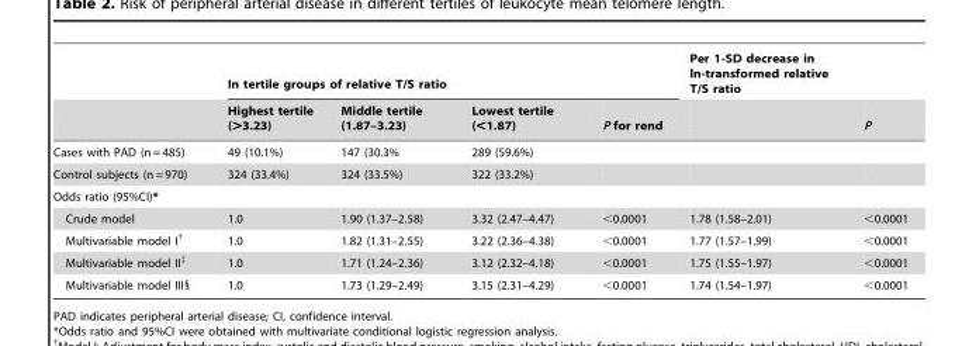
<table><thead><tr><td rowspan="2"></td><td colspan="4">In tertile groups of relative T/S ratio</td><td rowspan="2">Per 1-SD decrease in ln-transformed relative T/S ratio</td><td rowspan="2">P</td></tr><tr><td>Highest tertile (&gt;3.23)</td><td>Middle tertile (1.87–3.23)</td><td>Lowest tertile (&lt;1.87)</td><td>P for rend</td></tr></thead><tbody><tr><td>Cases with PAD (n = 485)</td><td>49 (10.1%)</td><td>147 (30.3%</td><td>289 (59.6%)</td><td></td><td></td><td></td></tr><tr><td>Control subjects (n = 970)</td><td>324 (33.4%)</td><td>324 (33.5%)</td><td>322 (33.2%)</td><td></td><td></td><td></td></tr><tr><td colspan="7">Odds ratio (95%CI)*</td></tr><tr><td>Crude model</td><td>1.0</td><td>1.90 (1.37–2.58)</td><td>3.32 (2.47–4.47)</td><td>&lt;0.0001</td><td>1.78 (1.58–2.01)</td><td>&lt;0.0001</td></tr><tr><td>Multivariable model I†</td><td>1.0</td><td>1.82 (1.31–2.55)</td><td>3.22 (2.36–4.38)</td><td>&lt;0.0001</td><td>1.77 (1.57–1.99)</td><td>&lt;0.0001</td></tr><tr><td>Multivariable model II‡</td><td>1.0</td><td>1.71 (1.24–2.36)</td><td>3.12 (2.32–4.18)</td><td>&lt;0.0001</td><td>1.75 (1.55–1.97)</td><td>&lt;0.0001</td></tr><tr><td>Multivariable model III§</td><td>1.0</td><td>1.73 (1.29–2.49)</td><td>3.15 (2.31–4.29)</td><td>&lt;0.0001</td><td>1.74 (1.54–1.97)</td><td>&lt;0.0001</td></tr></tbody></table>